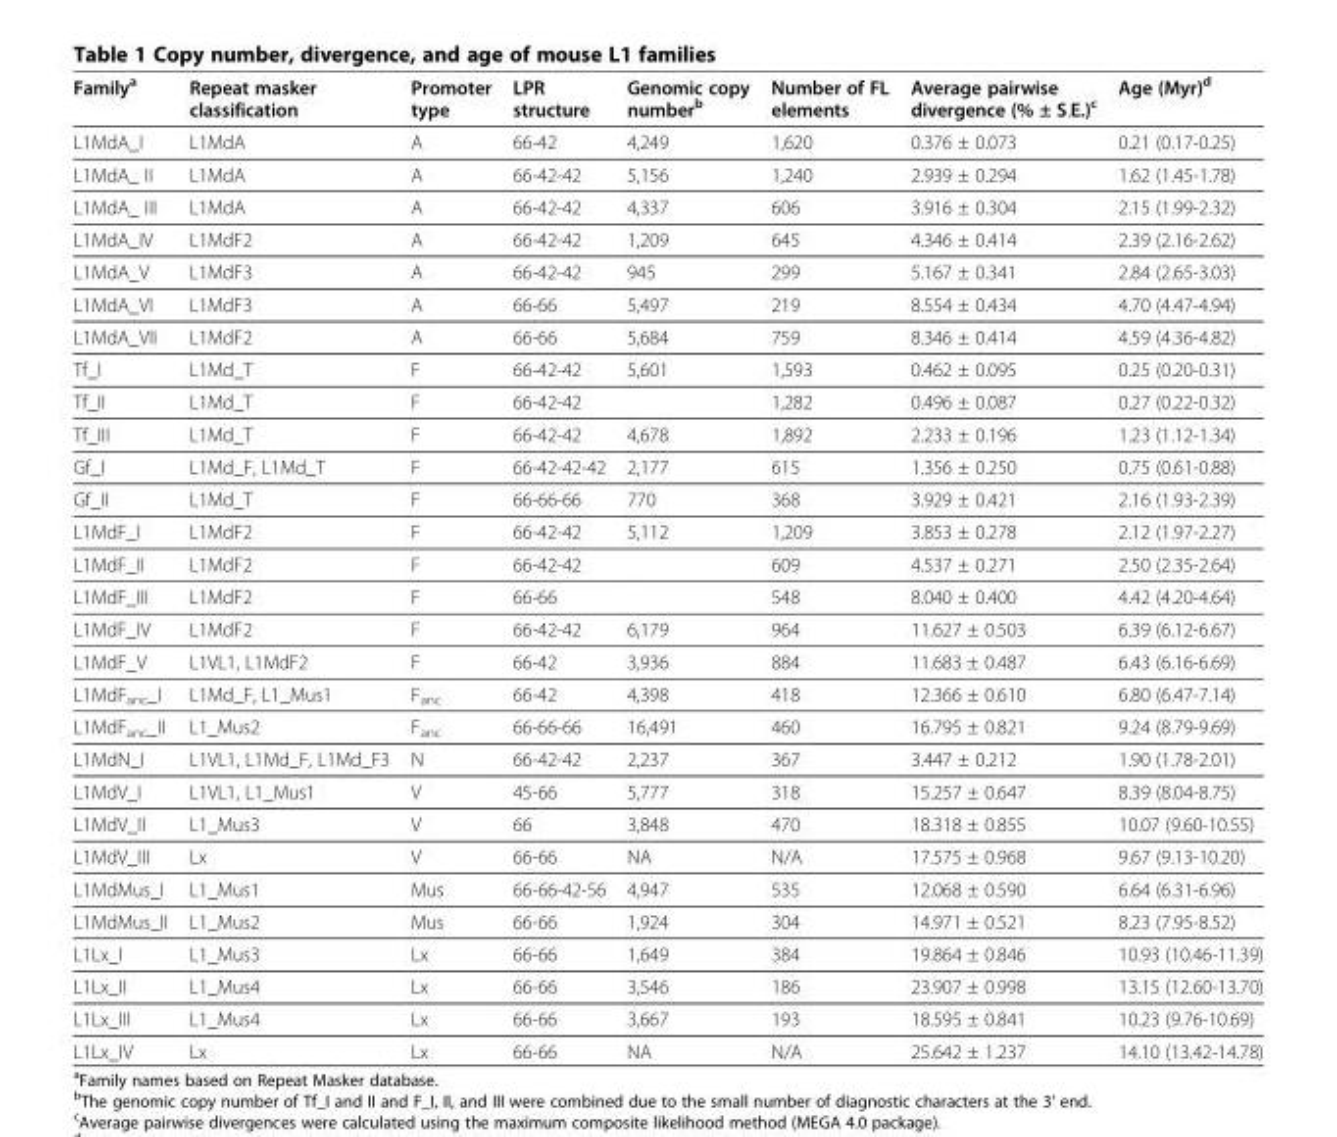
<table><thead><tr><td>Family<sup>a</sup></td><td>Repeat masker classification</td><td>Promoter type</td><td>LPR structure</td><td>Genomic copy number<sup>b</sup></td><td>Number of FL elements</td><td>Average pairwise divergence (% ± S.E.)<sup>c</sup></td><td>Age (Myr)<sup>d</sup></td></tr></thead><tbody><tr><td>L1MdA_I</td><td>L1MdA</td><td>A</td><td>66-42</td><td>4,249</td><td>1,620</td><td>0.376 ± 0.073</td><td>0.21 (0.17-0.25)</td></tr><tr><td>L1MdA_ II</td><td>L1MdA</td><td>A</td><td>66-42-42</td><td>5,156</td><td>1,240</td><td>2.939 ± 0.294</td><td>1.62 (1.45-1.78)</td></tr><tr><td>L1MdA_ III</td><td>L1MdA</td><td>A</td><td>66-42-42</td><td>4,337</td><td>606</td><td>3.916 ± 0.304</td><td>2.15 (1.99-2.32)</td></tr><tr><td>L1MdA_IV</td><td>L1MdF2</td><td>A</td><td>66-42-42</td><td>1,209</td><td>645</td><td>4.346 ± 0.414</td><td>2.39 (2.16-2.62)</td></tr><tr><td>L1MdA_V</td><td>L1MdF3</td><td>A</td><td>66-42-42</td><td>945</td><td>299</td><td>5.167 ± 0.341</td><td>2.84 (2.65-3.03)</td></tr><tr><td>L1MdA_VI</td><td>L1MdF3</td><td>A</td><td>66-66</td><td>5,497</td><td>219</td><td>8.554 ± 0.434</td><td>4.70 (4.47-4.94)</td></tr><tr><td>L1MdA_VII</td><td>L1MdF2</td><td>A</td><td>66-66</td><td>5,684</td><td>759</td><td>8.346 ± 0.414</td><td>4.59 (4.36-4.82)</td></tr><tr><td>Tf_I</td><td>L1Md_T</td><td>F</td><td>66-42-42</td><td>5,601</td><td>1,593</td><td>0.462 ± 0.095</td><td>0.25 (0.20-0.31)</td></tr><tr><td>Tf_II</td><td>L1Md_T</td><td>F</td><td>66-42-42</td><td></td><td>1,282</td><td>0.496 ± 0.087</td><td>0.27 (0.22-0.32)</td></tr><tr><td>Tf_III</td><td>L1Md_T</td><td>F</td><td>66-42-42</td><td>4,678</td><td>1,892</td><td>2.233 ± 0.196</td><td>1.23 (1.12-1.34)</td></tr><tr><td>Gf_I</td><td>L1Md_F, L1Md_T</td><td>F</td><td>66-42-42-42</td><td>2,177</td><td>615</td><td>1.356 ± 0.250</td><td>0.75 (0.61-0.88)</td></tr><tr><td>Gf_II</td><td>L1Md_T</td><td>F</td><td>66-66-66</td><td>770</td><td>368</td><td>3.929 ± 0.421</td><td>2.16 (1.93-2.39)</td></tr><tr><td>L1MdF_I</td><td>L1MdF2</td><td>F</td><td>66-42-42</td><td>5,112</td><td>1,209</td><td>3.853 ± 0.278</td><td>2.12 (1.97-2.27)</td></tr><tr><td>L1MdF_II</td><td>L1MdF2</td><td>F</td><td>66-42-42</td><td></td><td>609</td><td>4.537 ± 0.271</td><td>2.50 (2.35-2.64)</td></tr><tr><td>L1MdF_III</td><td>L1MdF2</td><td>F</td><td>66-66</td><td></td><td>548</td><td>8.040 ± 0.400</td><td>4.42 (4.20-4.64)</td></tr><tr><td>L1MdF_IV</td><td>L1MdF2</td><td>F</td><td>66-42-42</td><td>6,179</td><td>964</td><td>11.627 ± 0.503</td><td>6.39 (6.12-6.67)</td></tr><tr><td>L1MdF_V</td><td>L1VL1, L1MdF2</td><td>F</td><td>66-42</td><td>3,936</td><td>884</td><td>11.683 ± 0.487</td><td>6.43 (6.16-6.69)</td></tr><tr><td>L1MdFanc_I</td><td>L1Md_F, L1_Mus1</td><td>F<sub>anc</sub></td><td>66-42</td><td>4,398</td><td>418</td><td>12.366 ± 0.610</td><td>6.80 (6.47-7.14)</td></tr><tr><td>L1MdFanc_II</td><td>L1_Mus2</td><td>F<sub>anc</sub></td><td>66-66-66</td><td>16,491</td><td>460</td><td>16.795 ± 0.821</td><td>9.24 (8.79-9.69)</td></tr><tr><td>L1MdN_I</td><td>L1VL1, L1Md_F, L1Md_F3</td><td>N</td><td>66-42-42</td><td>2,237</td><td>367</td><td>3.447 ± 0.212</td><td>1.90 (1.78-2.01)</td></tr><tr><td>L1MdV_I</td><td>L1VL1, L1_Mus1</td><td>V</td><td>45-66</td><td>5,777</td><td>318</td><td>15.257 ± 0.647</td><td>8.39 (8.04-8.75)</td></tr><tr><td>L1MdV_II</td><td>L1_Mus3</td><td>V</td><td>66</td><td>3,848</td><td>470</td><td>18.318 ± 0.855</td><td>10.07 (9.60-10.55)</td></tr><tr><td>L1MdV_III</td><td>Lx</td><td>V</td><td>66-66</td><td>NA</td><td>N/A</td><td>17.575 ± 0.968</td><td>9.67 (9.13-10.20)</td></tr><tr><td>L1MdMus_I</td><td>L1_Mus1</td><td>Mus</td><td>66-66-42-56</td><td>4,947</td><td>535</td><td>12.068 ± 0.590</td><td>6.64 (6.31-6.96)</td></tr><tr><td>L1MdMus_II</td><td>L1_Mus2</td><td>Mus</td><td>66-66</td><td>1,924</td><td>304</td><td>14.971 ± 0.521</td><td>8.23 (7.95-8.52)</td></tr><tr><td>L1Lx_I</td><td>L1_Mus3</td><td>Lx</td><td>66-66</td><td>1,649</td><td>384</td><td>19.864 ± 0.846</td><td>10.93 (10.46-11.39)</td></tr><tr><td>L1Lx_II</td><td>L1_Mus4</td><td>Lx</td><td>66-66</td><td>3,546</td><td>186</td><td>23.907 ± 0.998</td><td>13.15 (12.60-13.70)</td></tr><tr><td>L1Lx_III</td><td>L1_Mus4</td><td>Lx</td><td>66-66</td><td>3,667</td><td>193</td><td>18.595 ± 0.841</td><td>10.23 (9.76-10.69)</td></tr><tr><td>L1Lx_IV</td><td>Lx</td><td>Lx</td><td>66-66</td><td>NA</td><td>N/A</td><td>25.642 ± 1.237</td><td>14.10 (13.42-14.78)</td></tr></tbody></table>